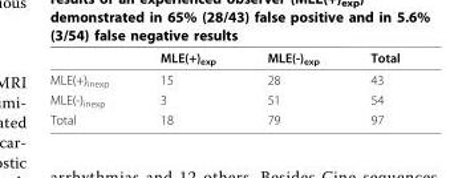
<table><thead><tr><td></td><td>MLE(+)<sub>exp</sub></td><td>MLE(-)<sub>exp</sub></td><td>Total</td></tr></thead><tbody><tr><td>MLE(+)<sub>inexp</sub></td><td>15</td><td>28</td><td>43</td></tr><tr><td>MLE(-)<sub>inexp</sub></td><td>3</td><td>51</td><td>54</td></tr><tr><td>Total</td><td>18</td><td>79</td><td>97</td></tr></tbody></table>